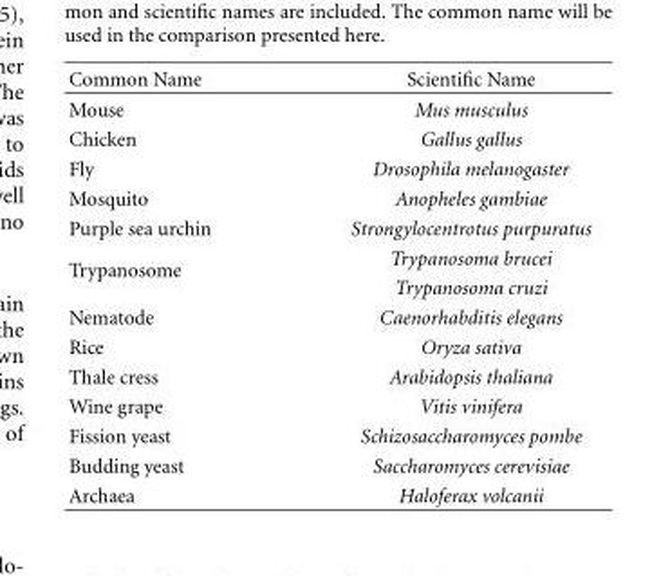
<table><thead><tr><td>Common Name</td><td>Scientific Name</td></tr></thead><tbody><tr><td>Mouse</td><td>Mus musculus</td></tr><tr><td>Chicken</td><td>Gallus gallus</td></tr><tr><td>Fly</td><td>Drosophila melanogaster</td></tr><tr><td>Mosquito</td><td>Anopheles gambiae</td></tr><tr><td>Purple sea urchin</td><td>Strongylocentrotus purpuratus</td></tr><tr><td rowspan="2">Trypanosome</td><td>Trypanosoma brucei</td></tr><tr><td>Trypanosoma cruzi</td></tr><tr><td>Nematode</td><td>Caenorhabditis elegans</td></tr><tr><td>Rice</td><td>Oryza sativa</td></tr><tr><td>Thale cress</td><td>Arabidopsis thaliana</td></tr><tr><td>Wine grape</td><td>Vitis vinifera</td></tr><tr><td>Fission yeast</td><td>Schizosaccharomyces pombe</td></tr><tr><td>Budding yeast</td><td>Saccharomyces cerevisiae</td></tr><tr><td>Archaea</td><td>Haloferax volcanii</td></tr></tbody></table>